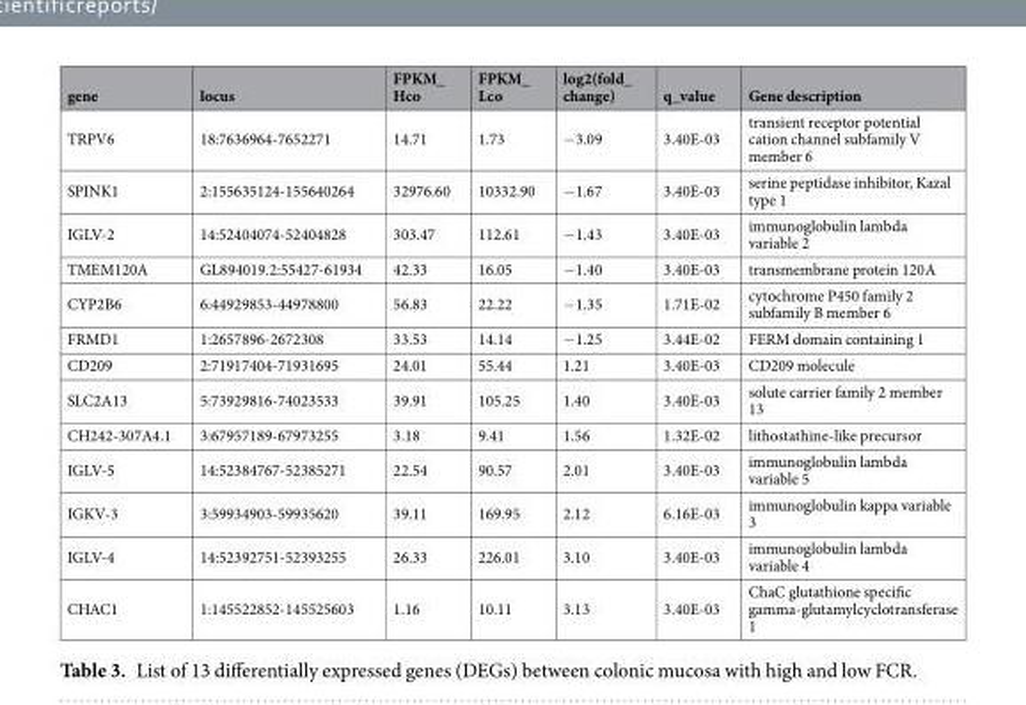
<table><thead><tr><td>gene</td><td>locus</td><td>FPKM_ Hco</td><td>FPKM_ Lco</td><td>log2(fold_ change)</td><td>q_value</td><td>Gene description</td></tr></thead><tbody><tr><td>TRPV6</td><td>18:7636964-7652271</td><td>14.71</td><td>1.73</td><td>−3.09</td><td>3.40E-03</td><td>transient receptor potential cation channel subfamily V member 6</td></tr><tr><td>SPINK1</td><td>2:155635124-155640264</td><td>32976.60</td><td>10332.90</td><td>−1.67</td><td>3.40E-03</td><td>serine peptidase inhibitor, Kazal type 1</td></tr><tr><td>IGLV-2</td><td>14:52404074-52404828</td><td>303.47</td><td>112.61</td><td>−1.43</td><td>3.40E-03</td><td>immunoglobulin lambda variable 2</td></tr><tr><td>TMEM120A</td><td>GL894019.2:55427-61934</td><td>42.33</td><td>16.05</td><td>−1.40</td><td>3.40E-03</td><td>transmembrane protein 120A</td></tr><tr><td>CYP2B6</td><td>6:44929853-44978800</td><td>56.83</td><td>22.22</td><td>−1.35</td><td>1.71E-02</td><td>cytochrome P450 family 2 subfamily B member 6</td></tr><tr><td>FRMD1</td><td>1:2657896-2672308</td><td>33.53</td><td>14.14</td><td>−1.25</td><td>3.44E-02</td><td>FERM domain containing 1</td></tr><tr><td>CD209</td><td>2:71917404-71931695</td><td>24.01</td><td>55.44</td><td>1.21</td><td>3.40E-03</td><td>CD209 molecule</td></tr><tr><td>SLC2A13</td><td>5:73929816-74023533</td><td>39.91</td><td>105.25</td><td>1.40</td><td>3.40E-03</td><td>solute carrier family 2 member 13</td></tr><tr><td>CH242-307A4.1</td><td>3:67957189-67973255</td><td>3.18</td><td>9.41</td><td>1.56</td><td>1.32E-02</td><td>lithostathine-like precursor</td></tr><tr><td>IGLV-5</td><td>14:52384767-52385271</td><td>22.54</td><td>90.57</td><td>2.01</td><td>3.40E-03</td><td>immunoglobulin lambda variable 5</td></tr><tr><td>IGKV-3</td><td>3:59934903-59935620</td><td>39.11</td><td>169.95</td><td>2.12</td><td>6.16E-03</td><td>immunoglobulin kappa variable 3</td></tr><tr><td>IGLV-4</td><td>14:52392751-52393255</td><td>26.33</td><td>226.01</td><td>3.10</td><td>3.40E-03</td><td>immunoglobulin lambda variable 4</td></tr><tr><td>CHAC1</td><td>1:145522852-145525603</td><td>1.16</td><td>10.11</td><td>3.13</td><td>3.40E-03</td><td>ChaC glutathione specific gamma-glutamylcyclotransferase 1</td></tr></tbody></table>